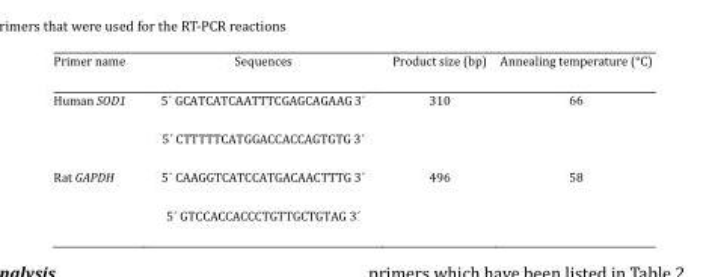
<table><thead><tr><td>Primer name</td><td>Sequences</td><td>Product size (bp)</td><td>Annealing temperature (°C)</td></tr></thead><tbody><tr><td rowspan="2">Human SOD1</td><td>5´ GCATCATCAATTTCGAGCAGAAG 3´</td><td rowspan="2">310</td><td rowspan="2">66</td></tr><tr><td>5´ CTTTTTCATGGACCACCAGTGTG 3´</td></tr><tr><td rowspan="2">Rat GAPDH</td><td>5´ CAAGGTCATCCATGACAACTTTG 3´</td><td rowspan="2">496</td><td rowspan="2">58</td></tr><tr><td>5´ GTCCACCACCCTGTTGCTGTAG 3´</td></tr></tbody></table>